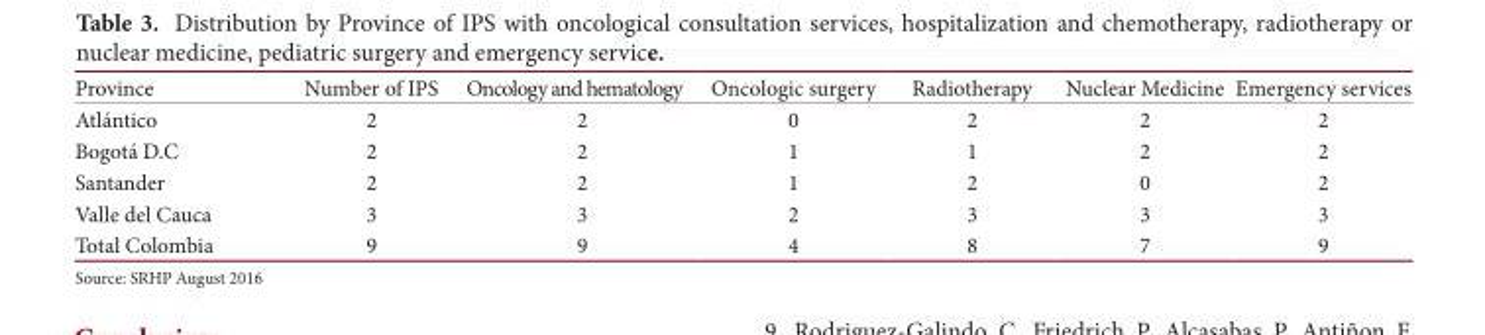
<table><thead><tr><td>Province</td><td>Number of IPS</td><td>Oncology and hematology</td><td>Oncologic surgery</td><td>Radiotherapy</td><td>Nuclear Medicine</td><td>Emergency services</td></tr></thead><tbody><tr><td>Atlántico</td><td>2</td><td>2</td><td>0</td><td>2</td><td>2</td><td>2</td></tr><tr><td>Bogotá D.C</td><td>2</td><td>2</td><td>1</td><td>1</td><td>2</td><td>2</td></tr><tr><td>Santander</td><td>2</td><td>2</td><td>1</td><td>2</td><td>0</td><td>2</td></tr><tr><td>Valle del Cauca</td><td>3</td><td>3</td><td>2</td><td>3</td><td>3</td><td>3</td></tr><tr><td>Total Colombia</td><td>9</td><td>9</td><td>4</td><td>8</td><td>7</td><td>9</td></tr></tbody></table>